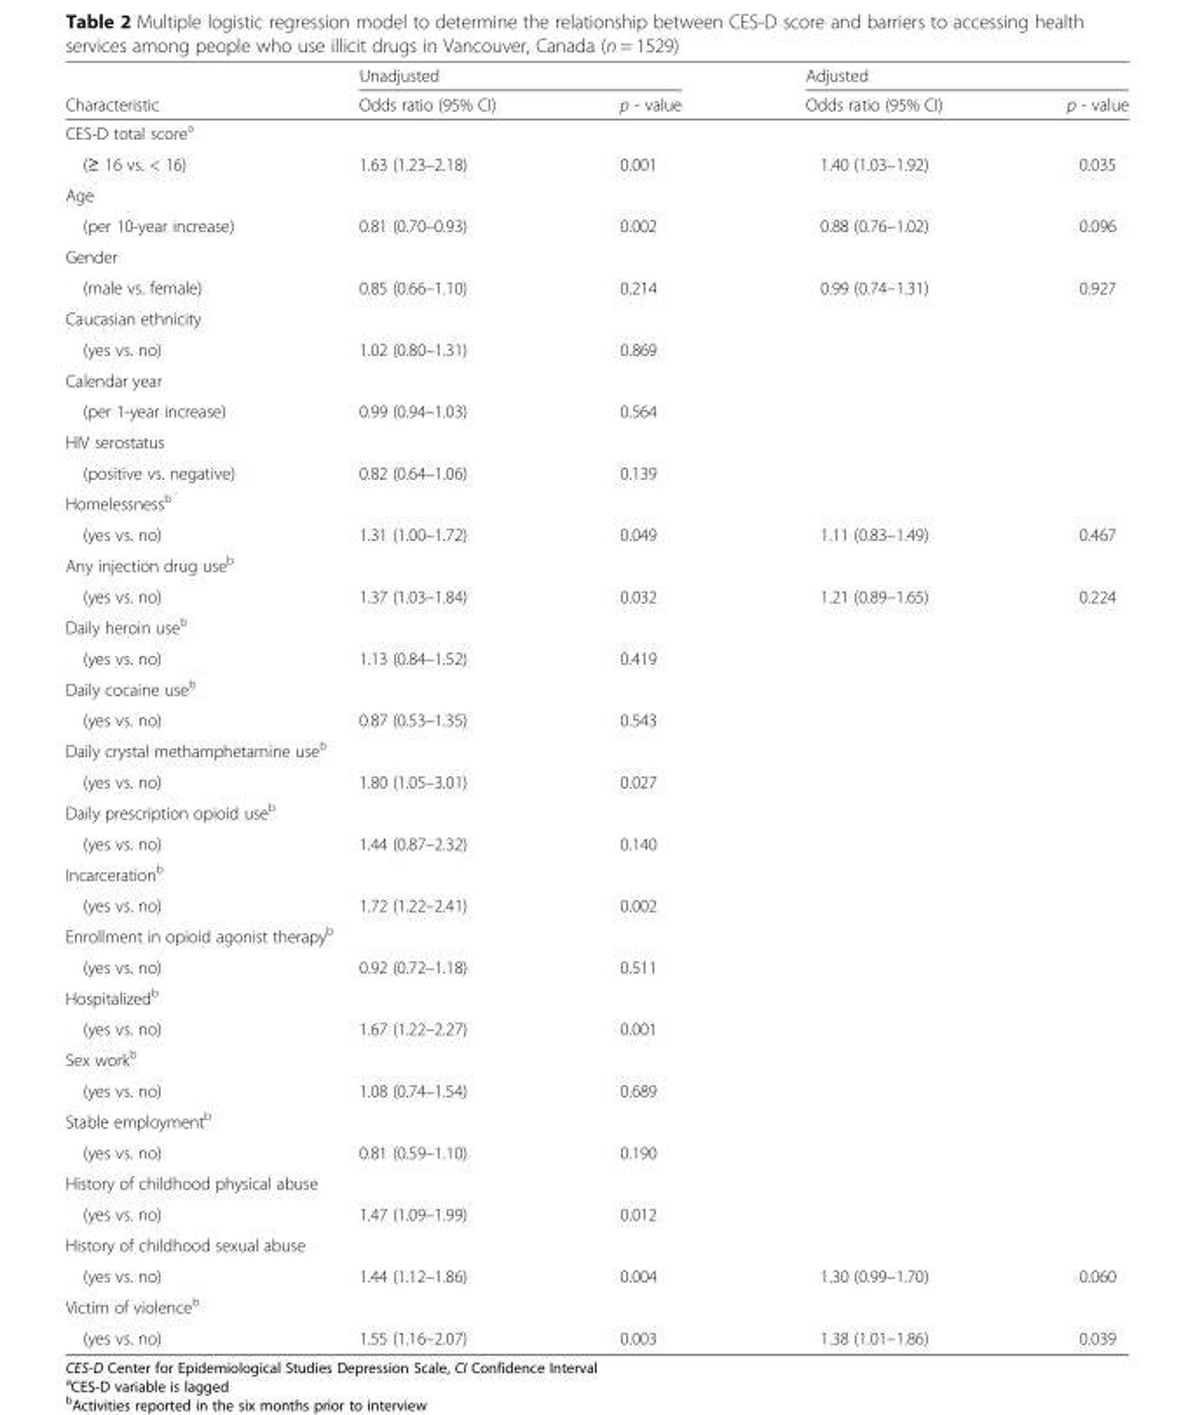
<table><thead><tr><td rowspan="2">Characteristic</td><td colspan="2">Unadjusted</td><td colspan="2">Adjusted</td></tr><tr><td>Odds ratio (95% CI)</td><td>p - value</td><td>Odds ratio (95% CI)</td><td>p - value</td></tr></thead><tbody><tr><td colspan="5">CES-D total score<sup>a</sup></td></tr><tr><td>(≥ 16 vs. &lt; 16)</td><td>1.63 (1.23–2.18)</td><td>0.001</td><td>1.40 (1.03–1.92)</td><td>0.035</td></tr><tr><td colspan="5">Age</td></tr><tr><td>(per 10-year increase)</td><td>0.81 (0.70–0.93)</td><td>0.002</td><td>0.88 (0.76–1.02)</td><td>0.096</td></tr><tr><td colspan="5">Gender</td></tr><tr><td>(male vs. female)</td><td>0.85 (0.66–1.10)</td><td>0.214</td><td>0.99 (0.74–1.31)</td><td>0.927</td></tr><tr><td colspan="5">Caucasian ethnicity</td></tr><tr><td>(yes vs. no)</td><td>1.02 (0.80–1.31)</td><td>0.869</td><td></td><td></td></tr><tr><td colspan="5">Calendar year</td></tr><tr><td>(per 1-year increase)</td><td>0.99 (0.94–1.03)</td><td>0.564</td><td></td><td></td></tr><tr><td colspan="5">HIV serostatus</td></tr><tr><td>(positive vs. negative)</td><td>0.82 (0.64–1.06)</td><td>0.139</td><td></td><td></td></tr><tr><td colspan="5">Homelessness<sup>b</sup></td></tr><tr><td>(yes vs. no)</td><td>1.31 (1.00–1.72)</td><td>0.049</td><td>1.11 (0.83–1.49)</td><td>0.467</td></tr><tr><td colspan="5">Any injection drug use<sup>b</sup></td></tr><tr><td>(yes vs. no)</td><td>1.37 (1.03–1.84)</td><td>0.032</td><td>1.21 (0.89–1.65)</td><td>0.224</td></tr><tr><td colspan="5">Daily heroin use<sup>b</sup></td></tr><tr><td>(yes vs. no)</td><td>1.13 (0.84–1.52)</td><td>0.419</td><td></td><td></td></tr><tr><td colspan="5">Daily cocaine use<sup>b</sup></td></tr><tr><td>(yes vs. no)</td><td>0.87 (0.53–1.35)</td><td>0.543</td><td></td><td></td></tr><tr><td colspan="5">Daily crystal methamphetamine use<sup>b</sup></td></tr><tr><td>(yes vs. no)</td><td>1.80 (1.05–3.01)</td><td>0.027</td><td></td><td></td></tr><tr><td colspan="5">Daily prescription opioid use<sup>b</sup></td></tr><tr><td>(yes vs. no)</td><td>1.44 (0.87–2.32)</td><td>0.140</td><td></td><td></td></tr><tr><td colspan="5">Incarceration<sup>b</sup></td></tr><tr><td>(yes vs. no)</td><td>1.72 (1.22–2.41)</td><td>0.002</td><td></td><td></td></tr><tr><td colspan="5">Enrollment in opioid agonist therapy<sup>b</sup></td></tr><tr><td>(yes vs. no)</td><td>0.92 (0.72–1.18)</td><td>0.511</td><td></td><td></td></tr><tr><td colspan="5">Hospitalized<sup>b</sup></td></tr><tr><td>(yes vs. no)</td><td>1.67 (1.22–2.27)</td><td>0.001</td><td></td><td></td></tr><tr><td colspan="5">Sex work<sup>b</sup></td></tr><tr><td>(yes vs. no)</td><td>1.08 (0.74–1.54)</td><td>0.689</td><td></td><td></td></tr><tr><td colspan="5">Stable employment<sup>b</sup></td></tr><tr><td>(yes vs. no)</td><td>0.81 (0.59–1.10)</td><td>0.190</td><td></td><td></td></tr><tr><td colspan="5">History of childhood physical abuse</td></tr><tr><td>(yes vs. no)</td><td>1.47 (1.09–1.99)</td><td>0.012</td><td></td><td></td></tr><tr><td colspan="5">History of childhood sexual abuse</td></tr><tr><td>(yes vs. no)</td><td>1.44 (1.12–1.86)</td><td>0.004</td><td>1.30 (0.99–1.70)</td><td>0.060</td></tr><tr><td colspan="5">Victim of violence<sup>b</sup></td></tr><tr><td>(yes vs. no)</td><td>1.55 (1.16–2.07)</td><td>0.003</td><td>1.38 (1.01–1.86)</td><td>0.039</td></tr></tbody></table>